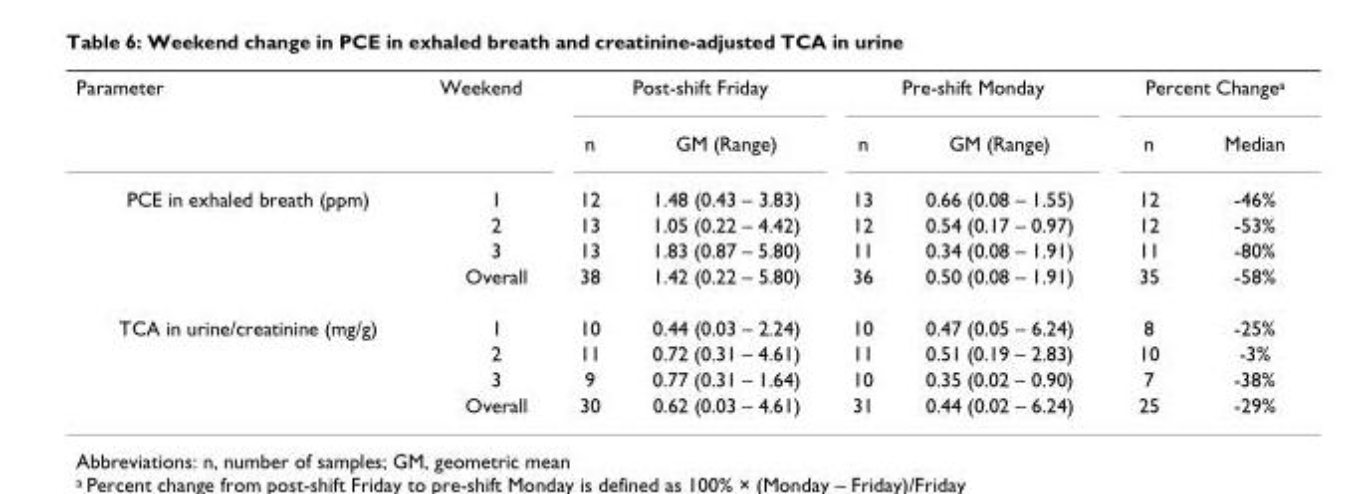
<table><tbody><tr><td rowspan="2">Parameter</td><td>Weekend</td><td colspan="2">Post-shift Friday</td><td colspan="2">Pre-shift Monday</td><td colspan="2">Percent Change<sup>a</sup></td></tr><tr><td></td><td>n</td><td>GM (Range)</td><td>n</td><td>GM (Range)</td><td>n</td><td>Median</td></tr><tr><td rowspan="4">PCE in exhaled breath (ppm)</td><td>1</td><td>12</td><td>1.48 (0.43 – 3.83)</td><td>13</td><td>0.66 (0.08 – 1.55)</td><td>12</td><td>-46%</td></tr><tr><td>2</td><td>13</td><td>1.05 (0.22 – 4.42)</td><td>12</td><td>0.54 (0.17 – 0.97)</td><td>12</td><td>-53%</td></tr><tr><td>3</td><td>13</td><td>1.83 (0.87 – 5.80)</td><td>11</td><td>0.34 (0.08 – 1.91)</td><td>11</td><td>-80%</td></tr><tr><td>Overall</td><td>38</td><td>1.42 (0.22 – 5.80)</td><td>36</td><td>0.50 (0.08 – 1.91)</td><td>35</td><td>-58%</td></tr><tr><td rowspan="4">TCA in urine/creatinine (mg/g)</td><td>1</td><td>10</td><td>0.44 (0.03 – 2.24)</td><td>10</td><td>0.47 (0.05 – 6.24)</td><td>8</td><td>-25%</td></tr><tr><td>2</td><td>11</td><td>0.72 (0.31 – 4.61)</td><td>11</td><td>0.51 (0.19 – 2.83)</td><td>10</td><td>-3%</td></tr><tr><td>3</td><td>9</td><td>0.77 (0.31 – 1.64)</td><td>10</td><td>0.35 (0.02 – 0.90)</td><td>7</td><td>-38%</td></tr><tr><td>Overall</td><td>30</td><td>0.62 (0.03 – 4.61)</td><td>31</td><td>0.44 (0.02 – 6.24)</td><td>25</td><td>-29%</td></tr></tbody></table>